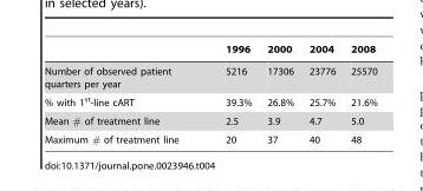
<table><thead><tr><td></td><td>1996</td><td>2000</td><td>2004</td><td>2008</td></tr></thead><tbody><tr><td>Number of observed patient quarters per year</td><td>5216</td><td>17306</td><td>23776</td><td>25570</td></tr><tr><td>% with 1<sup>st</sup>-line cART</td><td>39.3%</td><td>26.8%</td><td>25.7%</td><td>21.6%</td></tr><tr><td>Mean # of treatment line</td><td>2.5</td><td>3.9</td><td>4.7</td><td>5.0</td></tr><tr><td>Maximum # of treatment line</td><td>20</td><td>37</td><td>40</td><td>48</td></tr></tbody></table>